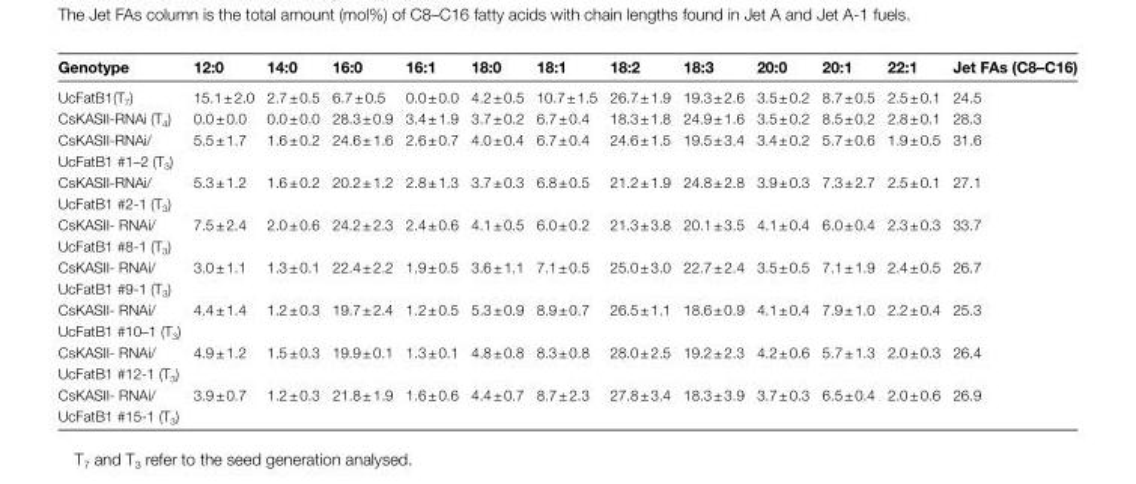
<table><thead><tr><td>Genotype</td><td>12:0</td><td>14:0</td><td>16:0</td><td>16:1</td><td>18:0</td><td>18:1</td><td>18:2</td><td>18:3</td><td>20:0</td><td>20:1</td><td>22:1</td><td>Jet FAs (C8–C16)</td></tr></thead><tbody><tr><td>UcFatB1(T<sub>7</sub>)</td><td>15.1 ± 2.0</td><td>2.7 ± 0.5</td><td>6.7 ± 0.5</td><td>0.0 ± 0.0</td><td>4.2 ± 0.5</td><td>10.7 ± 1.5</td><td>26.7 ± 1.9</td><td>19.3 ± 2.6</td><td>3.5 ± 0.2</td><td>8.7 ± 0.5</td><td>2.5 ± 0.1</td><td>24.5</td></tr><tr><td>CsKASII-RNAi (T<sub>4</sub>)</td><td>0.0 ± 0.0</td><td>0.0 ± 0.0</td><td>28.3 ± 0.9</td><td>3.4 ± 1.9</td><td>3.7 ± 0.2</td><td>6.7 ± 0.4</td><td>18.3 ± 1.8</td><td>24.9 ± 1.6</td><td>3.5 ± 0.2</td><td>8.5 ± 0.2</td><td>2.8 ± 0.1</td><td>28.3</td></tr><tr><td>CsKASII-RNAi/ UcFatB1 #1–2 (T<sub>3</sub>)</td><td>5.5 ± 1.7</td><td>1.6 ± 0.2</td><td>24.6 ± 1.6</td><td>2.6 ± 0.7</td><td>4.0 ± 0.4</td><td>6.7 ± 0.4</td><td>24.6 ± 1.5</td><td>19.5 ± 3.4</td><td>3.4 ± 0.2</td><td>5.7 ± 0.6</td><td>1.9 ± 0.5</td><td>31.6</td></tr><tr><td>CsKASII-RNAi/ UcFatB1 #2-1 (T<sub>3</sub>)</td><td>5.3 ± 1.2</td><td>1.6 ± 0.2</td><td>20.2 ± 1.2</td><td>2.8 ± 1.3</td><td>3.7 ± 0.3</td><td>6.8 ± 0.5</td><td>21.2 ± 1.9</td><td>24.8 ± 2.8</td><td>3.9 ± 0.3</td><td>7.3 ± 2.7</td><td>2.5 ± 0.1</td><td>27.1</td></tr><tr><td>CsKASII- RNAi/ UcFatB1 #8-1 (T<sub>3</sub>)</td><td>7.5 ± 2.4</td><td>2.0 ± 0.6</td><td>24.2 ± 2.3</td><td>2.4 ± 0.6</td><td>4.1 ± 0.5</td><td>6.0 ± 0.2</td><td>21.3 ± 3.8</td><td>20.1 ± 3.5</td><td>4.1 ± 0.4</td><td>6.0 ± 0.4</td><td>2.3 ± 0.3</td><td>33.7</td></tr><tr><td>CsKASII- RNAi/ UcFatB1 #9-1 (T<sub>3</sub>)</td><td>3.0 ± 1.1</td><td>1.3 ± 0.1</td><td>22.4 ± 2.2</td><td>1.9 ± 0.5</td><td>3.6 ± 1.1</td><td>7.1 ± 0.5</td><td>25.0 ± 3.0</td><td>22.7 ± 2.4</td><td>3.5 ± 0.5</td><td>7.1 ± 1.9</td><td>2.4 ± 0.5</td><td>26.7</td></tr><tr><td>CsKASII- RNAi/ UcFatB1 #10–1 (T<sub>3</sub>)</td><td>4.4 ± 1.4</td><td>1.2 ± 0.3</td><td>19.7 ± 2.4</td><td>1.2 ± 0.5</td><td>5.3 ± 0.9</td><td>8.9 ± 0.7</td><td>26.5 ± 1.1</td><td>18.6 ± 0.9</td><td>4.1 ± 0.4</td><td>7.9 ± 1.0</td><td>2.2 ± 0.4</td><td>25.3</td></tr><tr><td>CsKASII- RNAi/ UcFatB1 #12-1 (T<sub>3</sub>)</td><td>4.9 ± 1.2</td><td>1.5 ± 0.3</td><td>19.9 ± 0.1</td><td>1.3 ± 0.1</td><td>4.8 ± 0.8</td><td>8.3 ± 0.8</td><td>28.0 ± 2.5</td><td>19.2 ± 2.3</td><td>4.2 ± 0.6</td><td>5.7 ± 1.3</td><td>2.0 ± 0.3</td><td>26.4</td></tr><tr><td>CsKASII- RNAi/ UcFatB1 #15-1 (T<sub>3</sub>)</td><td>3.9 ± 0.7</td><td>1.2 ± 0.3</td><td>21.8 ± 1.9</td><td>1.6 ± 0.6</td><td>4.4 ± 0.7</td><td>8.7 ± 2.3</td><td>27.8 ± 3.4</td><td>18.3 ± 3.9</td><td>3.7 ± 0.3</td><td>6.5 ± 0.4</td><td>2.0 ± 0.6</td><td>26.9</td></tr></tbody></table>